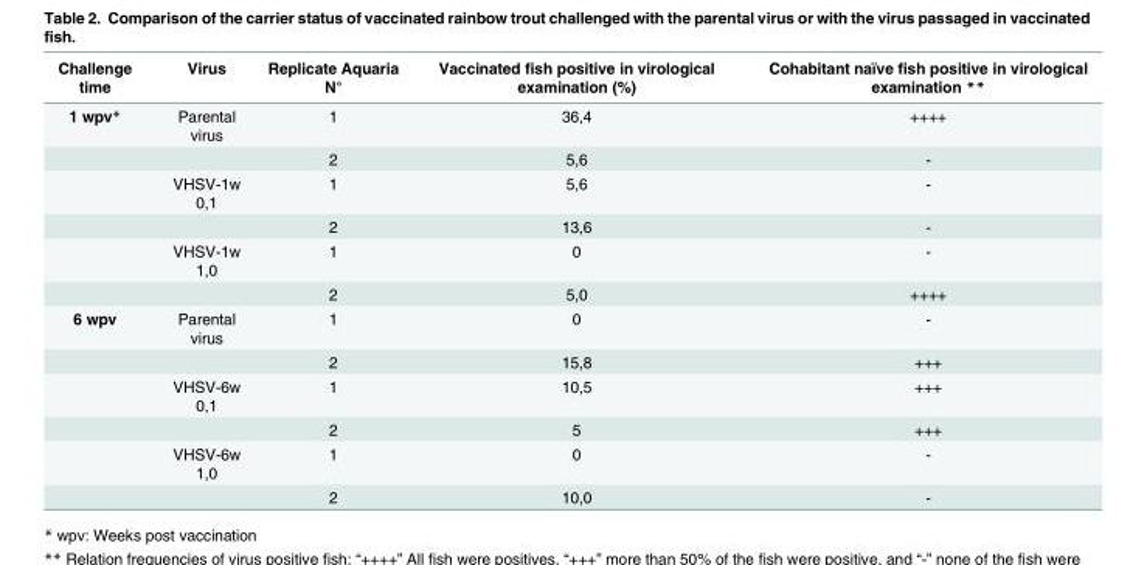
<table><thead><tr><td>Challenge time</td><td>Virus</td><td>Replicate Aquaria N°</td><td>Vaccinated fish positive in virological examination (%)</td><td>Cohabitant naïve fish positive in virological examination **</td></tr></thead><tbody><tr><td rowspan="6">1 wpv*</td><td>Parental virus</td><td>1</td><td>36,4</td><td>++++</td></tr><tr><td></td><td>2</td><td>5,6</td><td>-</td></tr><tr><td>VHSV-1w 0,1</td><td>1</td><td>5,6</td><td>-</td></tr><tr><td></td><td>2</td><td>13,6</td><td>-</td></tr><tr><td>VHSV-1w 1,0</td><td>1</td><td>0</td><td>-</td></tr><tr><td></td><td>2</td><td>5,0</td><td>++++</td></tr><tr><td rowspan="6">6 wpv</td><td>Parental virus</td><td>1</td><td>0</td><td>-</td></tr><tr><td></td><td>2</td><td>15,8</td><td>+++</td></tr><tr><td>VHSV-6w 0,1</td><td>1</td><td>10,5</td><td>+++</td></tr><tr><td></td><td>2</td><td>5</td><td>+++</td></tr><tr><td>VHSV-6w 1,0</td><td>1</td><td>0</td><td>-</td></tr><tr><td></td><td>2</td><td>10,0</td><td>-</td></tr></tbody></table>